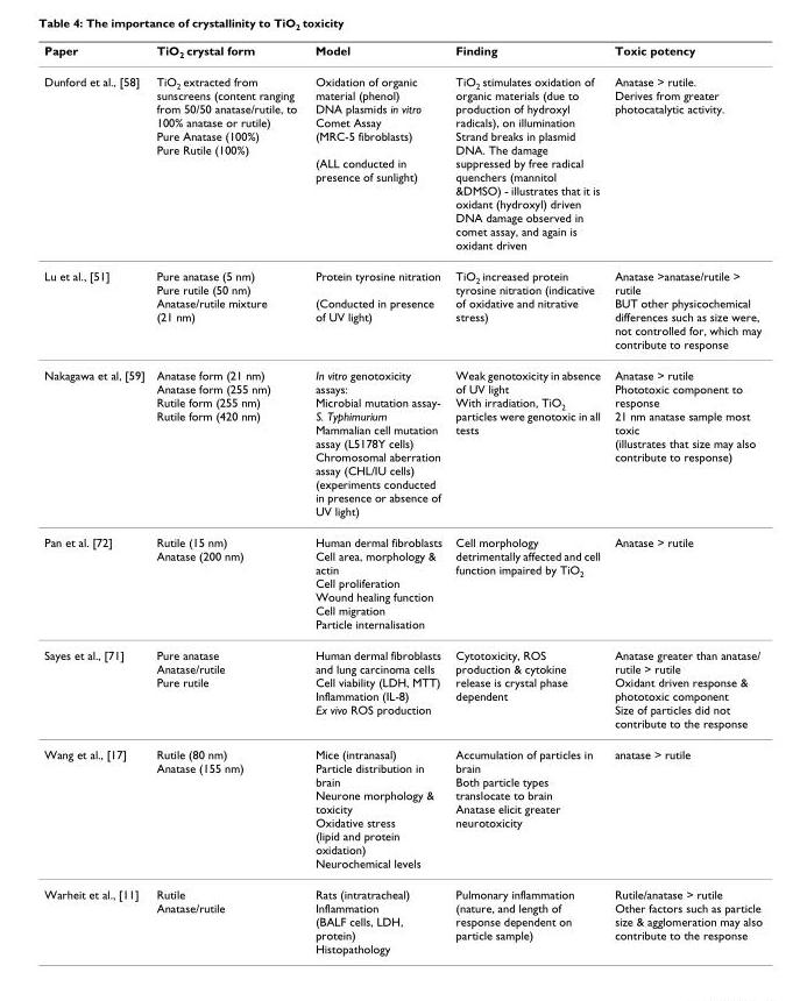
<table><thead><tr><td>Paper</td><td>TiO<sub>2</sub> crystal form</td><td>Model</td><td>Finding</td><td>Toxic potency</td></tr></thead><tbody><tr><td>Dunford et al., [58]</td><td>TiO<sub>2</sub> extracted from sunscreens (content ranging from 50/50 anatase/rutile, to 100% anatase or rutile) Pure Anatase (100%) Pure Rutile (100%)</td><td>Oxidation of organic material (phenol) DNA plasmids in vitro Comet Assay (MRC-5 fibroblasts) (ALL conducted in presence of sunlight)</td><td>TiO<sub>2</sub> stimulates oxidation of organic materials (due to production of hydroxyl radicals), on illumination Strand breaks in plasmid DNA. The damage suppressed by free radical quenchers (mannitol &amp;DMSO) - illustrates that it is oxidant (hydroxyl) driven DNA damage observed in comet assay, and again is oxidant driven</td><td>Anatase &gt; rutile. Derives from greater photocatalytic activity.</td></tr><tr><td>Lu et al., [51]</td><td>Pure anatase (5 nm) Pure rutile (50 nm) Anatase/rutile mixture (21 nm)</td><td>Protein tyrosine nitration (Conducted in presence of UV light)</td><td>TiO<sub>2</sub> increased protein tyrosine nitration (indicative of oxidative and nitrative stress)</td><td>Anatase &gt;anatase/rutile &gt; rutile BUT other physicochemical differences such as size were, not controlled for, which may contribute to response</td></tr><tr><td>Nakagawa et al, [59]</td><td>Anatase form (21 nm) Anatase form (255 nm) Rutile form (255 nm) Rutile form (420 nm)</td><td>In vitro genotoxicity assays: Microbial mutation assay- S. Typhimurium Mammalian cell mutation assay (L5178Y cells) Chromosomal aberration assay (CHL/IU cells) (experiments conducted in presence or absence of UV light)</td><td>Weak genotoxicity in absence of UV light With irradiation, TiO<sub>2</sub> particles were genotoxic in all tests</td><td>Anatase &gt; rutile Phototoxic component to response 21 nm anatase sample most toxic (illustrates that size may also contribute to response)</td></tr><tr><td>Pan et al. [72]</td><td>Rutile (15 nm) Anatase (200 nm)</td><td>Human dermal fibroblasts Cell area, morphology &amp; actin Cell proliferation Wound healing function Cell migration Particle internalisation</td><td>Cell morphology detrimentally affected and cell function impaired by TiO<sub>2</sub></td><td>Anatase &gt; rutile</td></tr><tr><td>Sayes et al., [71]</td><td>Pure anatase Anatase/rutile Pure rutile</td><td>Human dermal fibroblasts and lung carcinoma cells Cell viability (LDH, MTT) Inflammation (IL-8) Ex vivo ROS production</td><td>Cytotoxicity, ROS production &amp; cytokine release is crystal phase dependent</td><td>Anatase greater than anatase/ rutile &gt; rutile Oxidant driven response &amp; phototoxic component Size of particles did not contribute to the response</td></tr><tr><td>Wang et al., [17]</td><td>Rutile (80 nm) Anatase (155 nm)</td><td>Mice (intranasal) Particle distribution in brain Neurone morphology &amp; toxicity Oxidative stress (lipid and protein oxidation) Neurochemical levels</td><td>Accumulation of particles in brain Both particle types translocate to brain Anatase elicit greater neurotoxicity</td><td>anatase &gt; rutile</td></tr><tr><td>Warheit et al., [11]</td><td>Rutile Anatase/rutile</td><td>Rats (intratracheal) Inflammation (BALF cells, LDH, protein) Histopathology</td><td>Pulmonary inflammation (nature, and length of response dependent on particle sample)</td><td>Rutile/anatase &gt; rutile Other factors such as particle size &amp; agglomeration may also contribute to the response</td></tr></tbody></table>